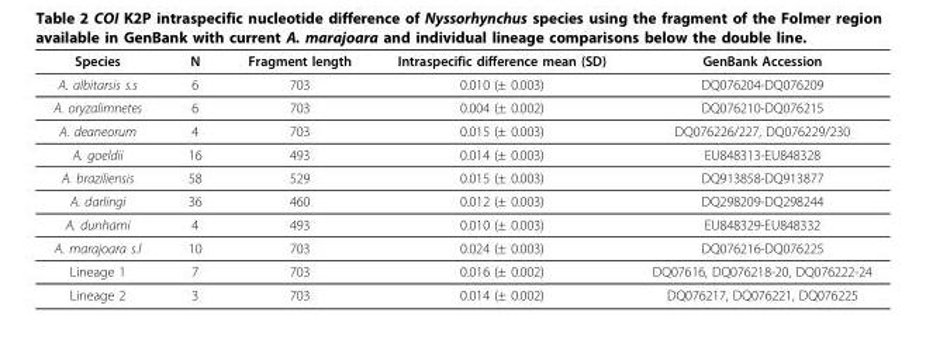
<table><thead><tr><td>Species</td><td>N</td><td>Fragment length</td><td>Intraspecific difference mean (SD)</td><td>GenBank Accession</td></tr></thead><tbody><tr><td>A. albitarsis s.s</td><td>6</td><td>703</td><td>0.010 (± 0.003)</td><td>DQ076204-DQ076209</td></tr><tr><td>A. oryzalimnetes</td><td>6</td><td>703</td><td>0.004 (± 0.002)</td><td>DQ076210-DQ076215</td></tr><tr><td>A. deaneorum</td><td>4</td><td>703</td><td>0.015 (± 0.003)</td><td>DQ076226/227, DQ076229/230</td></tr><tr><td>A. goeldii</td><td>16</td><td>493</td><td>0.014 (± 0.003)</td><td>EU848313-EU848328</td></tr><tr><td>A. braziliensis</td><td>58</td><td>529</td><td>0.015 (± 0.003)</td><td>DQ913858-DQ913877</td></tr><tr><td>A. darlingi</td><td>36</td><td>460</td><td>0.012 (± 0.003)</td><td>DQ298209-DQ298244</td></tr><tr><td>A. dunhami</td><td>4</td><td>493</td><td>0.010 (± 0.003)</td><td>EU848329-EU848332</td></tr><tr><td>A. marajoara s.l</td><td>10</td><td>703</td><td>0.024 (± 0.003)</td><td>DQ076216-DQ076225</td></tr><tr><td>Lineage 1</td><td>7</td><td>703</td><td>0.016 (± 0.002)</td><td>DQ07616, DQ076218-20, DQ076222-24</td></tr><tr><td>Lineage 2</td><td>3</td><td>703</td><td>0.014 (± 0.002)</td><td>DQ076217, DQ076221, DQ076225</td></tr></tbody></table>